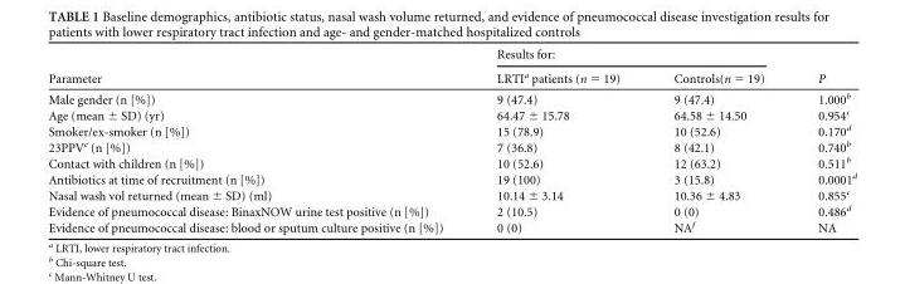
<table><thead><tr><td rowspan="2">Parameter</td><td colspan="2">Results for:</td><td rowspan="2">P</td></tr><tr><td>LRTI<sup>a</sup> patients (n = 19)</td><td>Controls(n = 19)</td></tr></thead><tbody><tr><td>Male gender (n [%])</td><td>9 (47.4)</td><td>9 (47.4)</td><td>1.000<sup>b</sup></td></tr><tr><td>Age (mean ± SD) (yr)</td><td>64.47 ± 15.78</td><td>64.58 ± 14.50</td><td>0.954<sup>c</sup></td></tr><tr><td>Smoker/ex-smoker (n [%])</td><td>15 (78.9)</td><td>10 (52.6)</td><td>0.170<sup>d</sup></td></tr><tr><td>23PPV<sup>e</sup> (n [%])</td><td>7 (36.8)</td><td>8 (42.1)</td><td>0.740<sup>b</sup></td></tr><tr><td>Contact with children (n [%])</td><td>10 (52.6)</td><td>12 (63.2)</td><td>0.511<sup>b</sup></td></tr><tr><td>Antibiotics at time of recruitment (n [%])</td><td>19 (100)</td><td>3 (15.8)</td><td>0.0001<sup>d</sup></td></tr><tr><td>Nasal wash vol returned (mean ± SD) (ml)</td><td>10.14 ± 3.14</td><td>10.36 ± 4.83</td><td>0.855<sup>c</sup></td></tr><tr><td>Evidence of pneumococcal disease: BinaxNOW urine test positive (n [%])</td><td>2 (10.5)</td><td>0 (0)</td><td>0.486<sup>d</sup></td></tr><tr><td>Evidence of pneumococcal disease: blood or sputum culture positive (n [%])</td><td>0 (0)</td><td>NA<sup>f</sup></td><td>NA</td></tr></tbody></table>